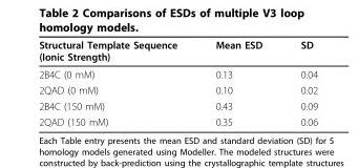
<table><thead><tr><td>Structural Template Sequence (Ionic Strength)</td><td>Mean ESD</td><td>SD</td></tr></thead><tbody><tr><td>2B4C (0 mM)</td><td>0.13</td><td>0.04</td></tr><tr><td>2QAD (0 mM)</td><td>0.10</td><td>0.02</td></tr><tr><td>2B4C (150 mM)</td><td>0.43</td><td>0.09</td></tr><tr><td>2QAD (150 mM)</td><td>0.35</td><td>0.06</td></tr></tbody></table>